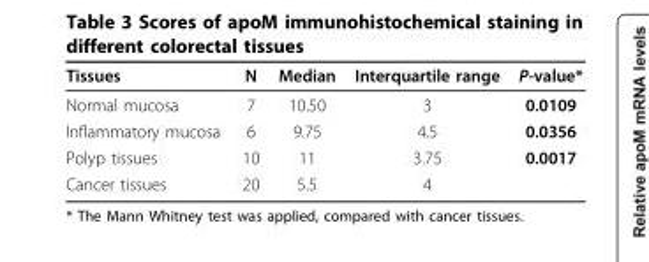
<table><thead><tr><td>Tissues</td><td>N</td><td>Median</td><td>Interquartile range</td><td>P-value*</td></tr></thead><tbody><tr><td>Normal mucosa</td><td>7</td><td>10.50</td><td>3</td><td>0.0109</td></tr><tr><td>Inflammatory mucosa</td><td>6</td><td>9.75</td><td>4.5</td><td>0.0356</td></tr><tr><td>Polyp tissues</td><td>10</td><td>11</td><td>3.75</td><td>0.0017</td></tr><tr><td>Cancer tissues</td><td>20</td><td>5.5</td><td>4</td><td></td></tr></tbody></table>